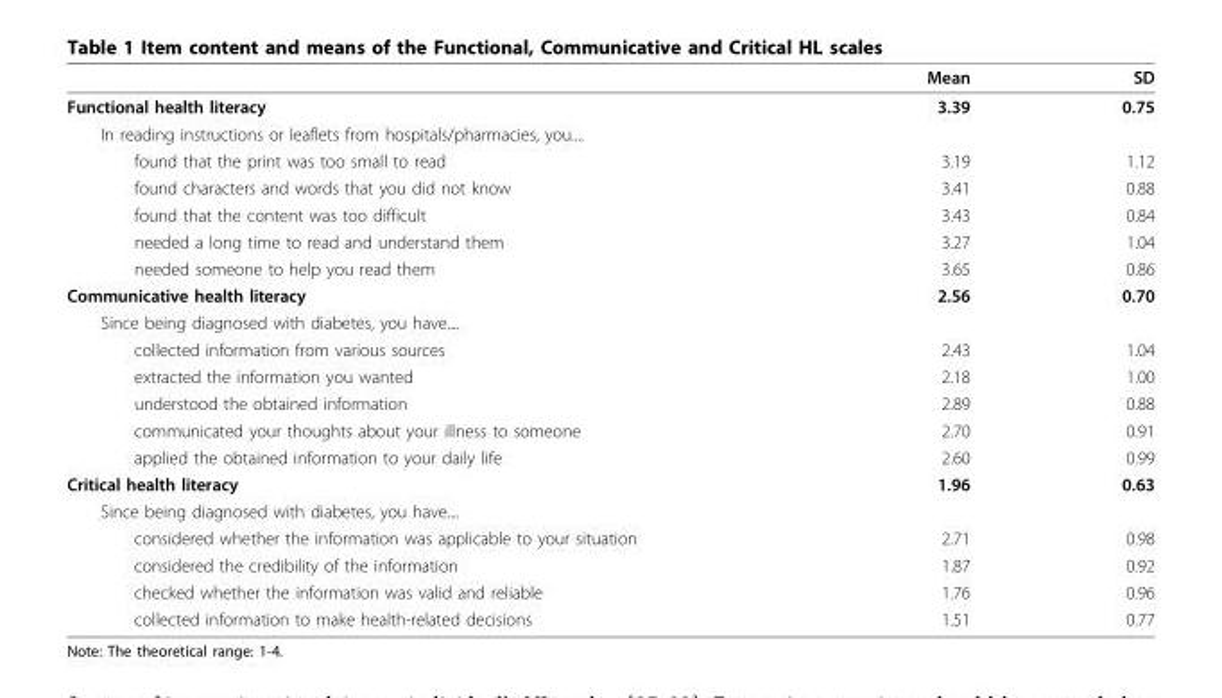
<table><thead><tr><td></td><td>Mean</td><td>SD</td></tr></thead><tbody><tr><td>Functional health literacy</td><td>3.39</td><td>0.75</td></tr><tr><td colspan="3">In reading instructions or leaflets from hospitals/pharmacies, you....</td></tr><tr><td>found that the print was too small to read</td><td>3.19</td><td>1.12</td></tr><tr><td>found characters and words that you did not know</td><td>3.41</td><td>0.88</td></tr><tr><td>found that the content was too difficult</td><td>3.43</td><td>0.84</td></tr><tr><td>needed a long time to read and understand them</td><td>3.27</td><td>1.04</td></tr><tr><td>needed someone to help you read them</td><td>3.65</td><td>0.86</td></tr><tr><td>Communicative health literacy</td><td>2.56</td><td>0.70</td></tr><tr><td colspan="3">Since being diagnosed with diabetes, you have....</td></tr><tr><td>collected information from various sources</td><td>2.43</td><td>1.04</td></tr><tr><td>extracted the information you wanted</td><td>2.18</td><td>1.00</td></tr><tr><td>understood the obtained information</td><td>2.89</td><td>0.88</td></tr><tr><td>communicated your thoughts about your illness to someone</td><td>2.70</td><td>0.91</td></tr><tr><td>applied the obtained information to your daily life</td><td>2.60</td><td>0.99</td></tr><tr><td>Critical health literacy</td><td>1.96</td><td>0.63</td></tr><tr><td colspan="3">Since being diagnosed with diabetes, you have....</td></tr><tr><td>considered whether the information was applicable to your situation</td><td>2.71</td><td>0.98</td></tr><tr><td>considered the credibility of the information</td><td>1.87</td><td>0.92</td></tr><tr><td>checked whether the information was valid and reliable</td><td>1.76</td><td>0.96</td></tr><tr><td>collected information to make health-related decisions</td><td>1.51</td><td>0.77</td></tr></tbody></table>